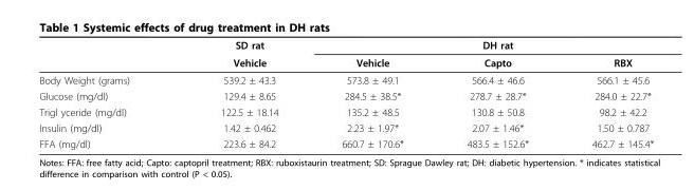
<table><thead><tr><td rowspan="2"></td><td rowspan="2">SD rat Vehicle</td><td colspan="3">DH rat</td></tr><tr><td>Vehicle</td><td>Capto</td><td>RBX</td></tr></thead><tbody><tr><td>Body Weight (grams)</td><td>539.2 ± 43.3</td><td>573.8 ± 49.1</td><td>566.4 ± 46.6</td><td>566.1 ± 45.6</td></tr><tr><td>Glucose (mg/dl)</td><td>129.4 ± 8.65</td><td>284.5 ± 38.5*</td><td>278.7 ± 28.7*</td><td>284.0 ± 22.7*</td></tr><tr><td>Trigl yceride (mg/dl)</td><td>122.5 ± 18.14</td><td>135.2 ± 48.5</td><td>130.8 ± 50.8</td><td>98.2 ± 42.2</td></tr><tr><td>Insulin (mg/dl)</td><td>1.42 ± 0.462</td><td>2.23 ± 1.97*</td><td>2.07 ± 1.46*</td><td>1.50 ± 0.787</td></tr><tr><td>FFA (mg/dl)</td><td>223.6 ± 84.2</td><td>660.7 ± 170.6*</td><td>483.5 ± 152.6*</td><td>462.7 ± 145.4*</td></tr></tbody></table>